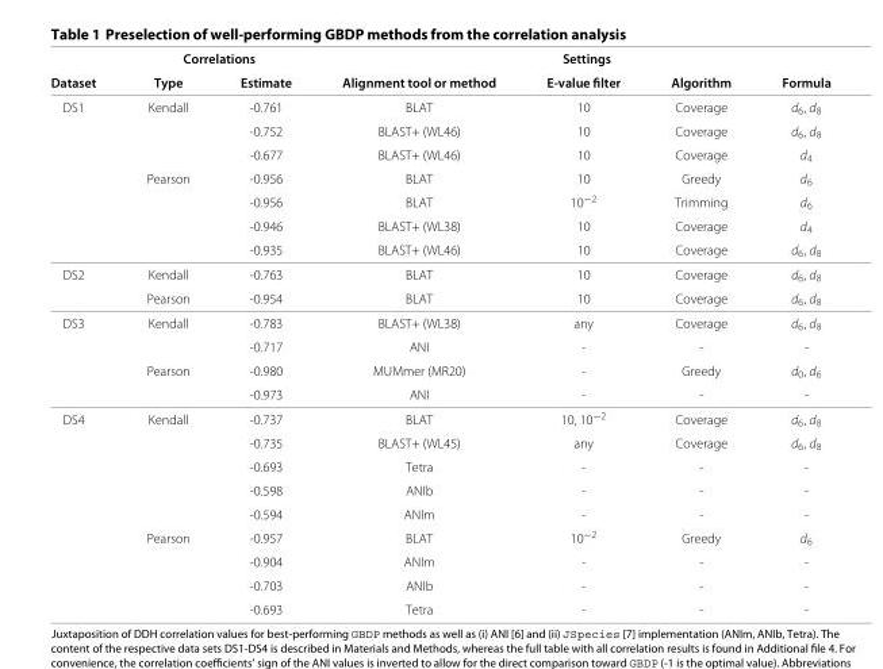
<table><thead><tr><td rowspan="2">Dataset</td><td colspan="2">Correlations</td><td colspan="4">Settings</td></tr><tr><td>Type</td><td>Estimate</td><td>Alignment tool or method</td><td>E-value filter</td><td>Algorithm</td><td>Formula</td></tr></thead><tbody><tr><td rowspan="7">DS1</td><td>Kendall</td><td>-0.761</td><td>BLAT</td><td>10</td><td>Coverage</td><td>d<sub>6</sub>, d<sub>8</sub></td></tr><tr><td></td><td>-0.752</td><td>BLAST+ (WL46)</td><td>10</td><td>Coverage</td><td>d<sub>6</sub>, d<sub>8</sub></td></tr><tr><td></td><td>-0.677</td><td>BLAST+ (WL46)</td><td>10</td><td>Coverage</td><td>d<sub>4</sub></td></tr><tr><td>Pearson</td><td>-0.956</td><td>BLAT</td><td>10</td><td>Greedy</td><td>d<sub>6</sub></td></tr><tr><td></td><td>-0.956</td><td>BLAT</td><td>10<sup>−2</sup></td><td>Trimming</td><td>d<sub>6</sub></td></tr><tr><td></td><td>-0.946</td><td>BLAST+ (WL38)</td><td>10</td><td>Coverage</td><td>d<sub>4</sub></td></tr><tr><td></td><td>-0.935</td><td>BLAST+ (WL46)</td><td>10</td><td>Coverage</td><td>d<sub>6</sub>, d<sub>8</sub></td></tr><tr><td rowspan="2">DS2</td><td>Kendall</td><td>-0.763</td><td>BLAT</td><td>10</td><td>Coverage</td><td>d<sub>6</sub>, d<sub>8</sub></td></tr><tr><td>Pearson</td><td>-0.954</td><td>BLAT</td><td>10</td><td>Coverage</td><td>d<sub>6</sub>, d<sub>8</sub></td></tr><tr><td rowspan="4">DS3</td><td>Kendall</td><td>-0.783</td><td>BLAST+ (WL38)</td><td>any</td><td>Coverage</td><td>d<sub>6</sub>, d<sub>8</sub></td></tr><tr><td></td><td>-0.717</td><td>ANI</td><td>-</td><td>-</td><td>-</td></tr><tr><td>Pearson</td><td>-0.980</td><td>MUMmer (MR20)</td><td>-</td><td>Greedy</td><td>d<sub>0</sub>, d<sub>6</sub></td></tr><tr><td></td><td>-0.973</td><td>ANI</td><td>-</td><td>-</td><td>-</td></tr><tr><td rowspan="9">DS4</td><td>Kendall</td><td>-0.737</td><td>BLAT</td><td>10, 10<sup>−2</sup></td><td>Coverage</td><td>d<sub>6</sub>, d<sub>8</sub></td></tr><tr><td></td><td>-0.735</td><td>BLAST+ (WL45)</td><td>any</td><td>Coverage</td><td>d<sub>6</sub>, d<sub>8</sub></td></tr><tr><td></td><td>-0.693</td><td>Tetra</td><td>-</td><td>-</td><td>-</td></tr><tr><td></td><td>-0.598</td><td>ANIb</td><td>-</td><td>-</td><td>-</td></tr><tr><td></td><td>-0.594</td><td>ANIm</td><td>-</td><td>-</td><td>-</td></tr><tr><td>Pearson</td><td>-0.957</td><td>BLAT</td><td>10<sup>−2</sup></td><td>Greedy</td><td>d<sub>6</sub></td></tr><tr><td></td><td>-0.904</td><td>ANIm</td><td>-</td><td>-</td><td>-</td></tr><tr><td></td><td>-0.703</td><td>ANIb</td><td>-</td><td>-</td><td>-</td></tr><tr><td></td><td>-0.693</td><td>Tetra</td><td>-</td><td>-</td><td>-</td></tr></tbody></table>